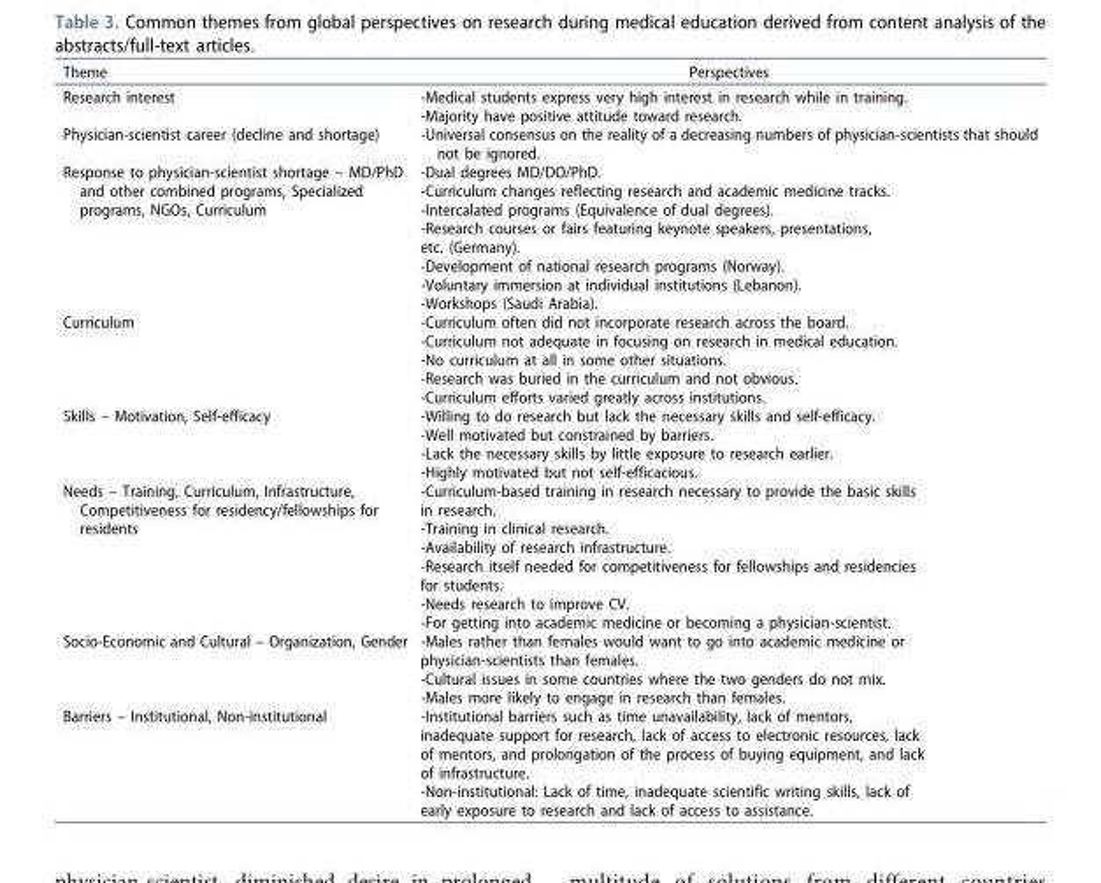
<table><thead><tr><td>Theme</td><td>Perspectives</td></tr></thead><tbody><tr><td>Research interest</td><td>-Medical students express very high interest in research while in training. -Majority have positive attitude toward research.</td></tr><tr><td>Physician-scientist career (decline and shortage)</td><td>-Universal consensus on the reality of a decreasing numbers of physician-scientists that should not be ignored.</td></tr><tr><td>Response to physician-scientist shortage – MD/PhD and other combined programs, Specialized programs, NGOs, Curriculum</td><td>-Dual degrees MD/DO/PhD. -Curriculum changes reflecting research and academic medicine tracks. -Intercalated programs (Equivalence of dual degrees). -Research courses or fairs featuring keynote speakers, presentations, etc. (Germany). -Development of national research programs (Norway). -Voluntary immersion at individual institutions (Lebanon). -Workshops (Saudi Arabia).</td></tr><tr><td>Curriculum</td><td>-Curriculum often did not incorporate research across the board. -Curriculum not adequate in focusing on research in medical education. -No curriculum at all in some other situations. -Research was buried in the curriculum and not obvious. -Curriculum efforts varied greatly across institutions.</td></tr><tr><td>Skills – Motivation, Self-efficacy</td><td>-Willing to do research but lack the necessary skills and self-efficacy. -Well motivated but constrained by barriers. -Lack the necessary skills by little exposure to research earlier. -Highly motivated but not self-efficacious.</td></tr><tr><td>Needs – Training, Curriculum, Infrastructure, Competitiveness for residency/fellowships for residents</td><td>-Curriculum-based training in research necessary to provide the basic skills in research. -Training in clinical research. -Availability of research infrastructure. -Research itself needed for competitiveness for fellowships and residencies for students. -Needs research to improve CV. -For getting into academic medicine or becoming a physician-scientist.</td></tr><tr><td>Socio-Economic and Cultural – Organization, Gender</td><td>-Males rather than females would want to go into academic medicine or physician-scientists than females. -Cultural issues in some countries where the two genders do not mix. -Males more likely to engage in research than females.</td></tr><tr><td>Barriers – Institutional, Non-institutional</td><td>-Institutional barriers such as time unavailability, lack of mentors, inadequate support for research, lack of access to electronic resources, lack of mentors, and prolongation of the process of buying equipment, and lack of infrastructure. -Non-institutional: Lack of time, inadequate scientific writing skills, lack of early exposure to research and lack of access to assistance.</td></tr></tbody></table>